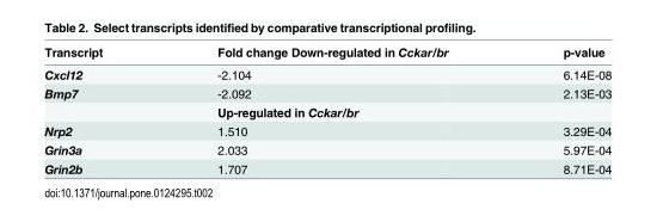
<table><thead><tr><td>Transcript</td><td>Fold change Down-regulated in Cckar/br</td><td>p-value</td></tr></thead><tbody><tr><td>Cxcl12</td><td>-2.104</td><td>6.14E-08</td></tr><tr><td rowspan="2">Bmp7</td><td>-2.092</td><td>2.13E-03</td></tr><tr><td>Up-regulated in Cckar/br</td><td></td></tr><tr><td>Nrp2</td><td>1.510</td><td>3.29E-04</td></tr><tr><td>Grin3a</td><td>2.033</td><td>5.97E-04</td></tr><tr><td>Grin2b</td><td>1.707</td><td>8.71E-04</td></tr></tbody></table>